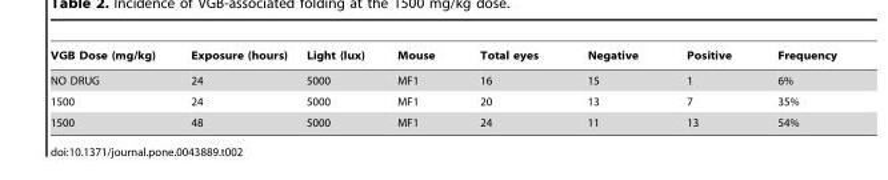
<table><thead><tr><td>VGB Dose (mg/kg)</td><td>Exposure (hours)</td><td>Light (lux)</td><td>Mouse</td><td>Total eyes</td><td>Negative</td><td>Positive</td><td>Frequency</td></tr></thead><tbody><tr><td>NO DRUG</td><td>24</td><td>5000</td><td>MF1</td><td>16</td><td>15</td><td>1</td><td>6%</td></tr><tr><td>1500</td><td>24</td><td>5000</td><td>MF1</td><td>20</td><td>13</td><td>7</td><td>35%</td></tr><tr><td>1500</td><td>48</td><td>5000</td><td>MF1</td><td>24</td><td>11</td><td>13</td><td>54%</td></tr></tbody></table>